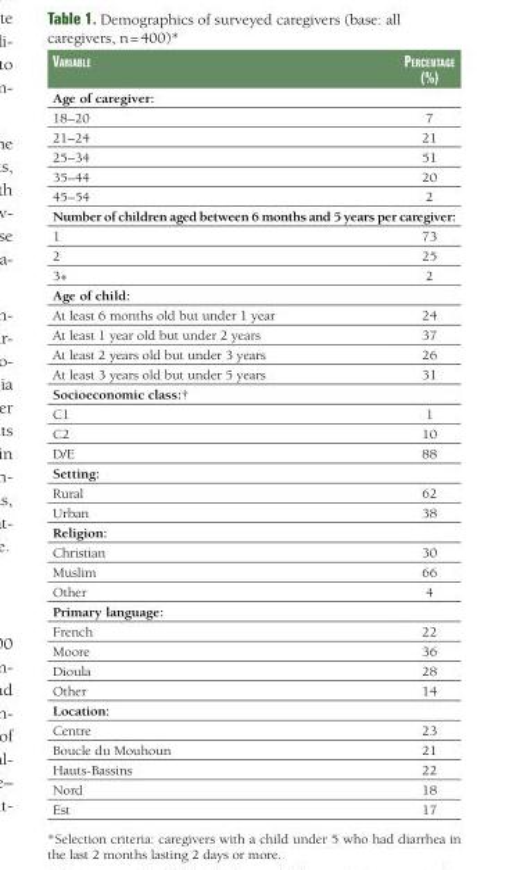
<table><thead><tr><td>Variable</td><td>Percentage (%)</td></tr></thead><tbody><tr><td colspan="2">Age of caregiver:</td></tr><tr><td>18–20</td><td>7</td></tr><tr><td>21–24</td><td>21</td></tr><tr><td>25–34</td><td>51</td></tr><tr><td>35–44</td><td>20</td></tr><tr><td>45–54</td><td>2</td></tr><tr><td colspan="2">Number of children aged between 6 months and 5 years per caregiver:</td></tr><tr><td>1</td><td>73</td></tr><tr><td>2</td><td>25</td></tr><tr><td>3+</td><td>2</td></tr><tr><td colspan="2">Age of child:</td></tr><tr><td>At least 6 months old but under 1 year</td><td>24</td></tr><tr><td>At least 1 year old but under 2 years</td><td>37</td></tr><tr><td>At least 2 years old but under 3 years</td><td>26</td></tr><tr><td>At least 3 years old but under 5 years</td><td>31</td></tr><tr><td colspan="2">Socioeconomic class:†</td></tr><tr><td>C1</td><td>1</td></tr><tr><td>C2</td><td>10</td></tr><tr><td>D/E</td><td>88</td></tr><tr><td colspan="2">Setting:</td></tr><tr><td>Rural</td><td>62</td></tr><tr><td>Urban</td><td>38</td></tr><tr><td colspan="2">Religion:</td></tr><tr><td>Christian</td><td>30</td></tr><tr><td>Muslim</td><td>66</td></tr><tr><td>Other</td><td>4</td></tr><tr><td colspan="2">Primary language:</td></tr><tr><td>French</td><td>22</td></tr><tr><td>Moore</td><td>36</td></tr><tr><td>Dioula</td><td>28</td></tr><tr><td>Other</td><td>14</td></tr><tr><td colspan="2">Location:</td></tr><tr><td>Centre</td><td>23</td></tr><tr><td>Boucle du Mouhoun</td><td>21</td></tr><tr><td>Hauts-Bassins</td><td>22</td></tr><tr><td>Nord</td><td>18</td></tr><tr><td>Est</td><td>17</td></tr></tbody></table>